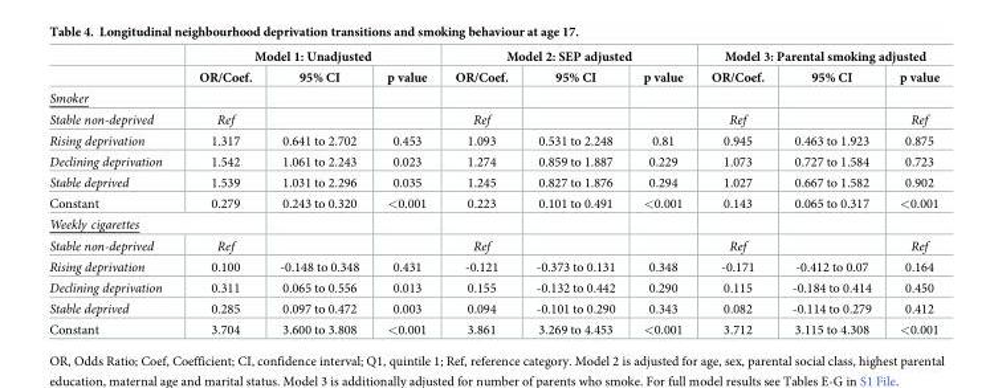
<table><thead><tr><td rowspan="2"></td><td colspan="3">Model 1: Unadjusted</td><td colspan="3">Model 2: SEP adjusted</td><td colspan="3">Model 3: Parental smoking adjusted</td></tr><tr><td>OR/Coef.</td><td>95% CI</td><td>p value</td><td>OR/Coef.</td><td>95% CI</td><td>p value</td><td>OR/Coef.</td><td>95% CI</td><td>p value</td></tr></thead><tbody><tr><td colspan="10">Smoker</td></tr><tr><td>Stable non-deprived</td><td>Ref</td><td></td><td></td><td>Ref</td><td></td><td></td><td>Ref</td><td></td><td>Ref</td></tr><tr><td>Rising deprivation</td><td>1.317</td><td>0.641 to 2.702</td><td>0.453</td><td>1.093</td><td>0.531 to 2.248</td><td>0.81</td><td>0.945</td><td>0.463 to 1.923</td><td>0.875</td></tr><tr><td>Declining deprivation</td><td>1.542</td><td>1.061 to 2.243</td><td>0.023</td><td>1.274</td><td>0.859 to 1.887</td><td>0.229</td><td>1.073</td><td>0.727 to 1.584</td><td>0.723</td></tr><tr><td>Stable deprived</td><td>1.539</td><td>1.031 to 2.296</td><td>0.035</td><td>1.245</td><td>0.827 to 1.876</td><td>0.294</td><td>1.027</td><td>0.667 to 1.582</td><td>0.902</td></tr><tr><td>Constant</td><td>0.279</td><td>0.243 to 0.320</td><td>&lt;0.001</td><td>0.223</td><td>0.101 to 0.491</td><td>&lt;0.001</td><td>0.143</td><td>0.065 to 0.317</td><td>&lt;0.001</td></tr><tr><td colspan="10">Weekly cigarettes</td></tr><tr><td>Stable non-deprived</td><td>Ref</td><td></td><td></td><td>Ref</td><td></td><td></td><td>Ref</td><td></td><td>Ref</td></tr><tr><td>Rising deprivation</td><td>0.100</td><td>-0.148 to 0.348</td><td>0.431</td><td>-0.121</td><td>-0.373 to 0.131</td><td>0.348</td><td>-0.171</td><td>-0.412 to 0.07</td><td>0.164</td></tr><tr><td>Declining deprivation</td><td>0.311</td><td>0.065 to 0.556</td><td>0.013</td><td>0.155</td><td>-0.132 to 0.442</td><td>0.290</td><td>0.115</td><td>-0.184 to 0.414</td><td>0.450</td></tr><tr><td>Stable deprived</td><td>0.285</td><td>0.097 to 0.472</td><td>0.003</td><td>0.094</td><td>-0.101 to 0.290</td><td>0.343</td><td>0.082</td><td>-0.114 to 0.279</td><td>0.412</td></tr><tr><td>Constant</td><td>3.704</td><td>3.600 to 3.808</td><td>&lt;0.001</td><td>3.861</td><td>3.269 to 4.453</td><td>&lt;0.001</td><td>3.712</td><td>3.115 to 4.308</td><td>&lt;0.001</td></tr></tbody></table>